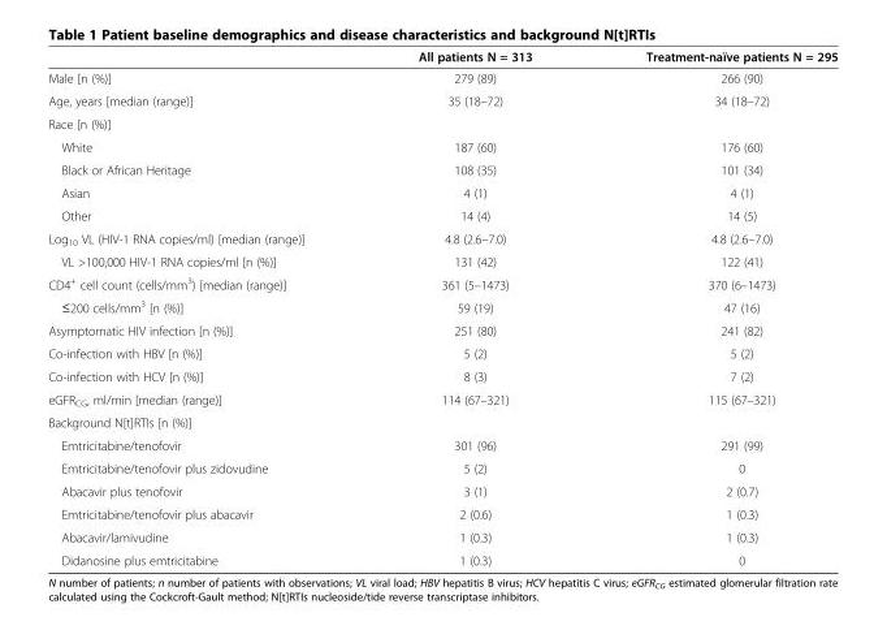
<table><thead><tr><td></td><td>All patients N = 313</td><td>Treatment-naïve patients N = 295</td></tr></thead><tbody><tr><td>Male [n (%)]</td><td>279 (89)</td><td>266 (90)</td></tr><tr><td>Age, years [median (range)]</td><td>35 (18–72)</td><td>34 (18–72)</td></tr><tr><td colspan="3">Race [n (%)]</td></tr><tr><td>White</td><td>187 (60)</td><td>176 (60)</td></tr><tr><td>Black or African Heritage</td><td>108 (35)</td><td>101 (34)</td></tr><tr><td>Asian</td><td>4 (1)</td><td>4 (1)</td></tr><tr><td>Other</td><td>14 (4)</td><td>14 (5)</td></tr><tr><td>Log<sub>10</sub> VL (HIV-1 RNA copies/ml) [median (range)]</td><td>4.8 (2.6–7.0)</td><td>4.8 (2.6–7.0)</td></tr><tr><td>VL &gt;100,000 HIV-1 RNA copies/ml [n (%)]</td><td>131 (42)</td><td>122 (41)</td></tr><tr><td>CD4<sup>+</sup> cell count (cells/mm<sup>3</sup>) [median (range)]</td><td>361 (5–1473)</td><td>370 (6–1473)</td></tr><tr><td>≤200 cells/mm<sup>3</sup> [n (%)]</td><td>59 (19)</td><td>47 (16)</td></tr><tr><td>Asymptomatic HIV infection [n (%)]</td><td>251 (80)</td><td>241 (82)</td></tr><tr><td>Co-infection with HBV [n (%)]</td><td>5 (2)</td><td>5 (2)</td></tr><tr><td>Co-infection with HCV [n (%)]</td><td>8 (3)</td><td>7 (2)</td></tr><tr><td>eGFR<sub>CG</sub>, ml/min [median (range)]</td><td>114 (67–321)</td><td>115 (67–321)</td></tr><tr><td colspan="3">Background N[t]RTIs [n (%)]</td></tr><tr><td>Emtricitabine/tenofovir</td><td>301 (96)</td><td>291 (99)</td></tr><tr><td>Emtricitabine/tenofovir plus zidovudine</td><td>5 (2)</td><td>0</td></tr><tr><td>Abacavir plus tenofovir</td><td>3 (1)</td><td>2 (0.7)</td></tr><tr><td>Emtricitabine/tenofovir plus abacavir</td><td>2 (0.6)</td><td>1 (0.3)</td></tr><tr><td>Abacavir/lamivudine</td><td>1 (0.3)</td><td>1 (0.3)</td></tr><tr><td>Didanosine plus emtricitabine</td><td>1 (0.3)</td><td>0</td></tr></tbody></table>